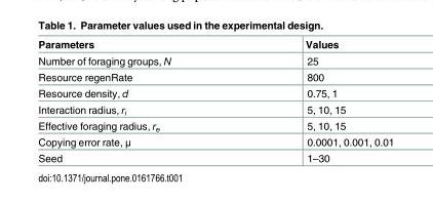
<table><thead><tr><td>Parameters</td><td>Values</td></tr></thead><tbody><tr><td>Number of foraging groups, N</td><td>25</td></tr><tr><td>Resource regenRate</td><td>800</td></tr><tr><td>Resource density, d</td><td>0.75, 1</td></tr><tr><td>Interaction radius, r<sub>i</sub></td><td>5, 10, 15</td></tr><tr><td>Effective foraging radius, r<sub>e</sub></td><td>5, 10, 15</td></tr><tr><td>Copying error rate, μ</td><td>0.0001, 0.001, 0.01</td></tr><tr><td>Seed</td><td>1–30</td></tr></tbody></table>